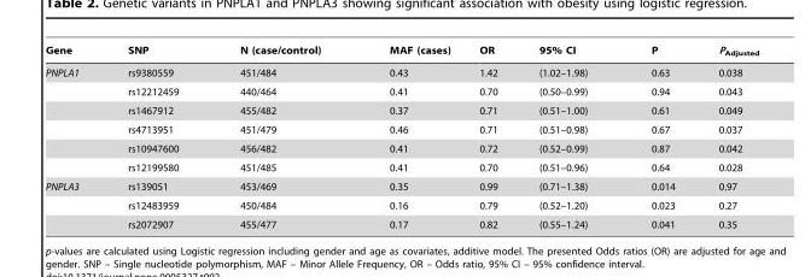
<table><thead><tr><td>Gene</td><td>SNP</td><td>N (case/control)</td><td>MAF (cases)</td><td>OR</td><td>95% CI</td><td>P</td><td>P<sub>Adjusted</sub></td></tr></thead><tbody><tr><td rowspan="6">PNPLA1</td><td>rs9380559</td><td>451/484</td><td>0.43</td><td>1.42</td><td>(1.02–1.98)</td><td>0.63</td><td>0.038</td></tr><tr><td>rs12212459</td><td>440/464</td><td>0.41</td><td>0.70</td><td>(0.50–0.99)</td><td>0.94</td><td>0.043</td></tr><tr><td>rs1467912</td><td>455/482</td><td>0.37</td><td>0.71</td><td>(0.51–1.00)</td><td>0.61</td><td>0.049</td></tr><tr><td>rs4713951</td><td>451/479</td><td>0.46</td><td>0.71</td><td>(0.51–0.98)</td><td>0.67</td><td>0.037</td></tr><tr><td>rs10947600</td><td>456/482</td><td>0.41</td><td>0.72</td><td>(0.52–0.99)</td><td>0.87</td><td>0.042</td></tr><tr><td>rs12199580</td><td>451/485</td><td>0.41</td><td>0.70</td><td>(0.51–0.96)</td><td>0.64</td><td>0.028</td></tr><tr><td rowspan="3">PNPLA3</td><td>rs139051</td><td>453/469</td><td>0.35</td><td>0.99</td><td>(0.71–1.38)</td><td>0.014</td><td>0.97</td></tr><tr><td>rs12483959</td><td>450/484</td><td>0.16</td><td>0.79</td><td>(0.52–1.20)</td><td>0.023</td><td>0.27</td></tr><tr><td>rs2072907</td><td>455/477</td><td>0.17</td><td>0.82</td><td>(0.55–1.24)</td><td>0.041</td><td>0.35</td></tr></tbody></table>